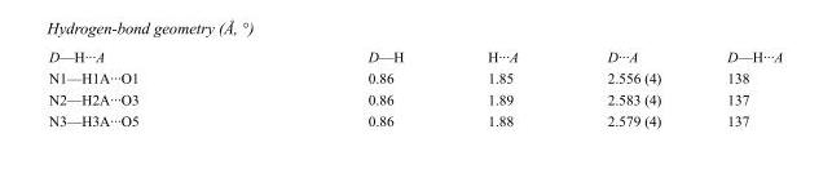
<table><tbody><tr><td>D—H···A</td><td>D—H</td><td>H···A</td><td>D···A</td><td>D—H···A</td></tr><tr><td>N1—H1A···O1</td><td>0.86</td><td>1.85</td><td>2.556 (4)</td><td>138</td></tr><tr><td>N2—H2A···O3</td><td>0.86</td><td>1.89</td><td>2.583 (4)</td><td>137</td></tr><tr><td>N3—H3A···O5</td><td>0.86</td><td>1.88</td><td>2.579 (4)</td><td>137</td></tr></tbody></table>